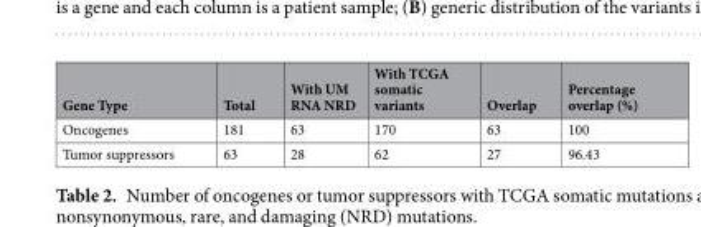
<table><thead><tr><td>Gene Type</td><td>Total</td><td>With UM RNA NRD</td><td>With TCGA somatic variants</td><td>Overlap</td><td>Percentage overlap (%)</td></tr></thead><tbody><tr><td>Oncogenes</td><td>181</td><td>63</td><td>170</td><td>63</td><td>100</td></tr><tr><td>Tumor suppressors</td><td>63</td><td>28</td><td>62</td><td>27</td><td>96.43</td></tr></tbody></table>